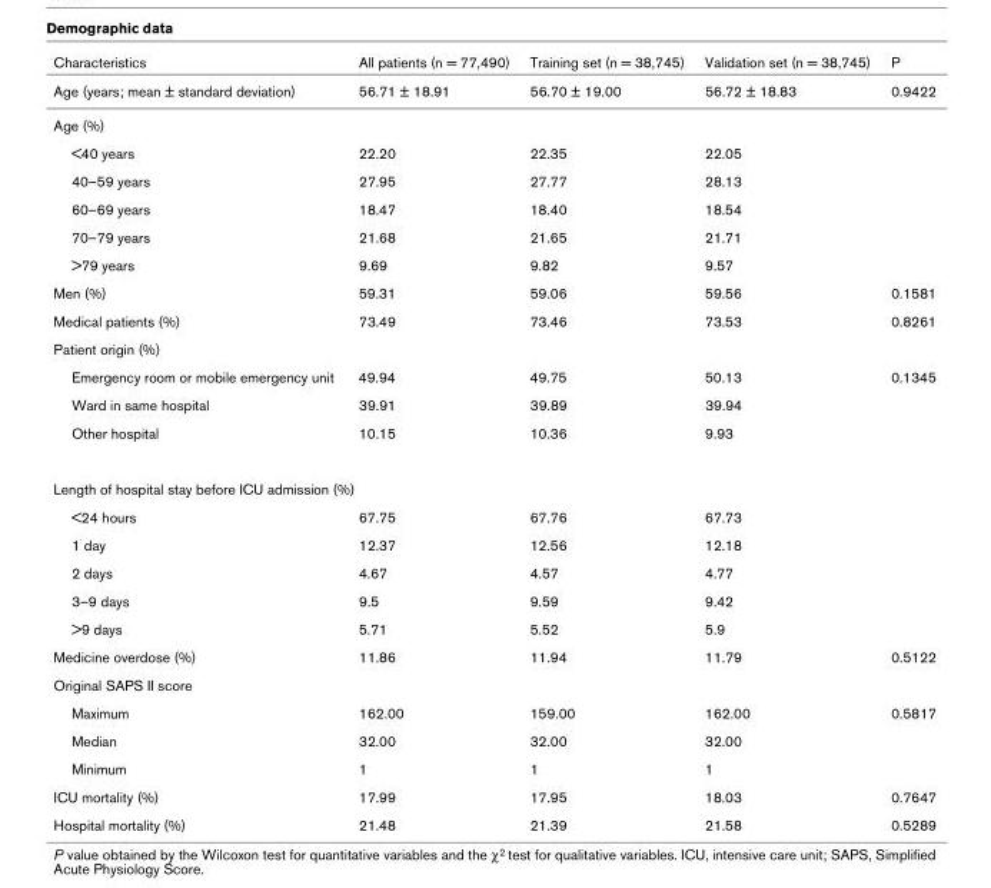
<table><thead><tr><td>Characteristics</td><td>All patients (n = 77,490)</td><td>Training set (n = 38,745)</td><td>Validation set (n = 38,745)</td><td>P</td></tr></thead><tbody><tr><td>Age (years; mean ± standard deviation)</td><td>56.71 ± 18.91</td><td>56.70 ± 19.00</td><td>56.72 ± 18.83</td><td>0.9422</td></tr><tr><td colspan="5">Age (%)</td></tr><tr><td>&lt;40 years</td><td>22.20</td><td>22.35</td><td>22.05</td><td></td></tr><tr><td>40–59 years</td><td>27.95</td><td>27.77</td><td>28.13</td><td></td></tr><tr><td>60–69 years</td><td>18.47</td><td>18.40</td><td>18.54</td><td></td></tr><tr><td>70–79 years</td><td>21.68</td><td>21.65</td><td>21.71</td><td></td></tr><tr><td>&gt;79 years</td><td>9.69</td><td>9.82</td><td>9.57</td><td></td></tr><tr><td>Men (%)</td><td>59.31</td><td>59.06</td><td>59.56</td><td>0.1581</td></tr><tr><td>Medical patients (%)</td><td>73.49</td><td>73.46</td><td>73.53</td><td>0.8261</td></tr><tr><td colspan="5">Patient origin (%)</td></tr><tr><td>Emergency room or mobile emergency unit</td><td>49.94</td><td>49.75</td><td>50.13</td><td>0.1345</td></tr><tr><td>Ward in same hospital</td><td>39.91</td><td>39.89</td><td>39.94</td><td></td></tr><tr><td>Other hospital</td><td>10.15</td><td>10.36</td><td>9.93</td><td></td></tr><tr><td colspan="5">Length of hospital stay before ICU admission (%)</td></tr><tr><td>&lt;24 hours</td><td>67.75</td><td>67.76</td><td>67.73</td><td></td></tr><tr><td>1 day</td><td>12.37</td><td>12.56</td><td>12.18</td><td></td></tr><tr><td>2 days</td><td>4.67</td><td>4.57</td><td>4.77</td><td></td></tr><tr><td>3–9 days</td><td>9.5</td><td>9.59</td><td>9.42</td><td></td></tr><tr><td>&gt;9 days</td><td>5.71</td><td>5.52</td><td>5.9</td><td></td></tr><tr><td>Medicine overdose (%)</td><td>11.86</td><td>11.94</td><td>11.79</td><td>0.5122</td></tr><tr><td colspan="5">Original SAPS II score</td></tr><tr><td>Maximum</td><td>162.00</td><td>159.00</td><td>162.00</td><td>0.5817</td></tr><tr><td>Median</td><td>32.00</td><td>32.00</td><td>32.00</td><td></td></tr><tr><td>Minimum</td><td>1</td><td>1</td><td>1</td><td></td></tr><tr><td>ICU mortality (%)</td><td>17.99</td><td>17.95</td><td>18.03</td><td>0.7647</td></tr><tr><td>Hospital mortality (%)</td><td>21.48</td><td>21.39</td><td>21.58</td><td>0.5289</td></tr></tbody></table>